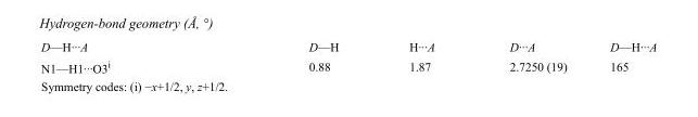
<table><tbody><tr><td>D—H···A</td><td>D—H</td><td>H···A</td><td>D···A</td><td>D—H···A</td></tr><tr><td>N1—H1···O3<sup>i</sup></td><td>0.88</td><td>1.87</td><td>2.7250 (19)</td><td>165</td></tr></tbody></table>